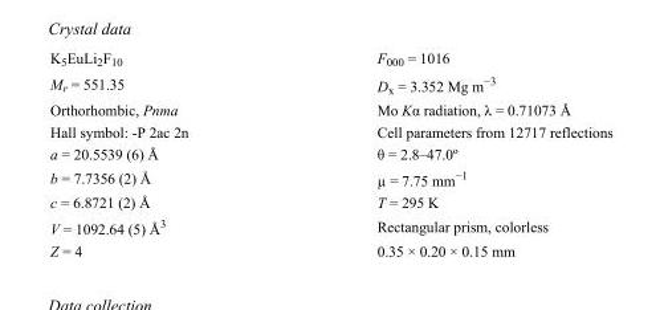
<table><tbody><tr><td>K<sub>5</sub>EuLi<sub>2</sub>F<sub>10</sub></td><td>F000 = 1016</td></tr><tr><td>M<sub>r</sub> = 551.35</td><td>D<sub>x</sub> = 3.352 Mg m<sup>−3</sup></td></tr><tr><td>Orthorhombic, Pnma</td><td>Mo Kα radiation, λ = 0.71073 Å</td></tr><tr><td>Hall symbol: -P 2ac 2n</td><td>Cell parameters from 12717 reflections</td></tr><tr><td>a = 20.5539 (6) Å</td><td>θ = 2.8–47.0º</td></tr><tr><td>b = 7.7356 (2) Å</td><td>µ = 7.75 mm<sup>−1</sup></td></tr><tr><td>c = 6.8721 (2) Å</td><td>T = 295 K</td></tr><tr><td>V = 1092.64 (5) Å<sup>3</sup></td><td>Rectangular prism, colorless</td></tr><tr><td>Z = 4</td><td>0.35 × 0.20 × 0.15 mm</td></tr></tbody></table>